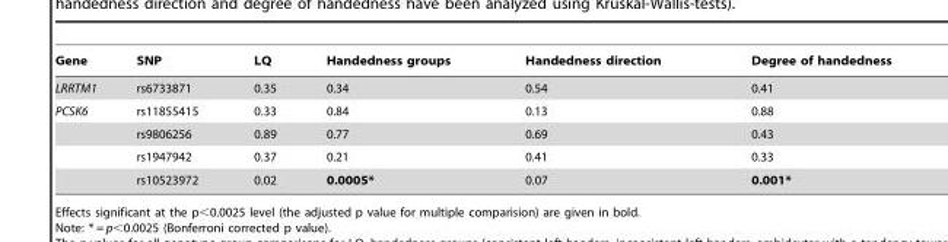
<table><thead><tr><td>Gene</td><td>SNP</td><td>LQ</td><td>Handedness groups</td><td>Handedness direction</td><td>Degree of handedness</td></tr></thead><tbody><tr><td>LRRTM1</td><td>rs6733871</td><td>0.35</td><td>0.34</td><td>0.54</td><td>0.41</td></tr><tr><td rowspan="4">PCSK6</td><td>rs11855415</td><td>0.33</td><td>0.84</td><td>0.13</td><td>0.88</td></tr><tr><td>rs9806256</td><td>0.89</td><td>0.77</td><td>0.69</td><td>0.43</td></tr><tr><td>rs1947942</td><td>0.37</td><td>0.21</td><td>0.41</td><td>0.33</td></tr><tr><td>rs10523972</td><td>0.02</td><td>0.0005*</td><td>0.07</td><td>0.001*</td></tr></tbody></table>